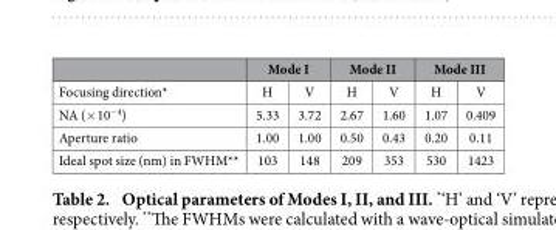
<table><thead><tr><td rowspan="2">Focusing direction*</td><td colspan="2">Mode I</td><td colspan="2">Mode II</td><td colspan="2">Mode III</td></tr><tr><td>H</td><td>V</td><td>H</td><td>V</td><td>H</td><td>V</td></tr></thead><tbody><tr><td>NA (× 10<sup>−4</sup>)</td><td>5.33</td><td>3.72</td><td>2.67</td><td>1.60</td><td>1.07</td><td>0.409</td></tr><tr><td>Aperture ratio</td><td>1.00</td><td>1.00</td><td>0.50</td><td>0.43</td><td>0.20</td><td>0.11</td></tr><tr><td>Ideal spot size (nm) in FWHM**</td><td>103</td><td>148</td><td>209</td><td>353</td><td>530</td><td>1423</td></tr></tbody></table>